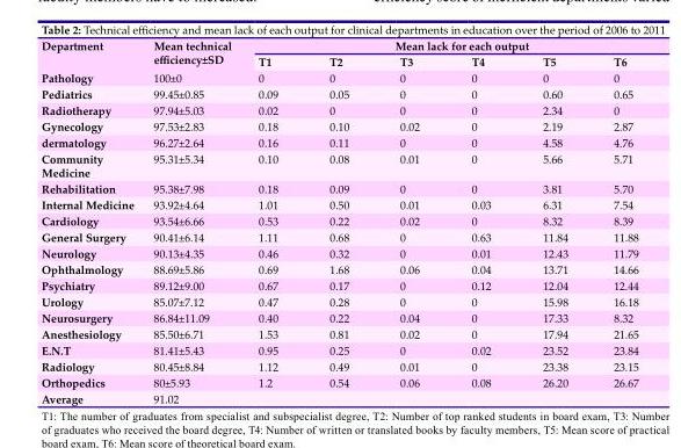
<table><thead><tr><td rowspan="2">Department</td><td rowspan="2">Mean technical efficiency±SD</td><td colspan="6">Mean lack for each output</td></tr><tr><td>T1</td><td>T2</td><td>T3</td><td>T4</td><td>T5</td><td>T6</td></tr></thead><tbody><tr><td>Pathology</td><td>100±0</td><td>0</td><td>0</td><td>0</td><td>0</td><td>0</td><td>0</td></tr><tr><td>Pediatrics</td><td>99.45±0.85</td><td>0.09</td><td>0.05</td><td>0</td><td>0</td><td>0.60</td><td>0.65</td></tr><tr><td>Radiotherapy</td><td>97.94±5.03</td><td>0.02</td><td>0</td><td>0</td><td>0</td><td>2.34</td><td>0</td></tr><tr><td>Gynecology</td><td>97.53±2.83</td><td>0.18</td><td>0.10</td><td>0.02</td><td>0</td><td>2.19</td><td>2.87</td></tr><tr><td>dermatology</td><td>96.27±2.64</td><td>0.16</td><td>0.11</td><td>0</td><td>0</td><td>4.58</td><td>4.76</td></tr><tr><td>Community Medicine</td><td>95.31±5.34</td><td>0.10</td><td>0.08</td><td>0.01</td><td>0</td><td>5.66</td><td>5.71</td></tr><tr><td>Rehabilitation</td><td>95.38±7.98</td><td>0.18</td><td>0.09</td><td>0</td><td>0</td><td>3.81</td><td>5.70</td></tr><tr><td>Internal Medicine</td><td>93.92±4.64</td><td>1.01</td><td>0.50</td><td>0.01</td><td>0.03</td><td>6.31</td><td>7.54</td></tr><tr><td>Cardiology</td><td>93.54±6.66</td><td>0.53</td><td>0.22</td><td>0.02</td><td>0</td><td>8.32</td><td>8.39</td></tr><tr><td>General Surgery</td><td>90.41±6.14</td><td>1.11</td><td>0.68</td><td>0</td><td>0.63</td><td>11.84</td><td>11.88</td></tr><tr><td>Neurology</td><td>90.13±4.35</td><td>0.46</td><td>0.32</td><td>0</td><td>0.01</td><td>12.43</td><td>11.79</td></tr><tr><td>Ophthalmology</td><td>88.69±5.86</td><td>0.69</td><td>1.68</td><td>0.06</td><td>0.04</td><td>13.71</td><td>14.66</td></tr><tr><td>Psychiatry</td><td>89.12±9.00</td><td>0.67</td><td>0.17</td><td>0</td><td>0.12</td><td>12.04</td><td>12.44</td></tr><tr><td>Urology</td><td>85.07±7.12</td><td>0.47</td><td>0.28</td><td>0</td><td>0</td><td>15.98</td><td>16.18</td></tr><tr><td>Neurosurgery</td><td>86.84±11.09</td><td>0.40</td><td>0.22</td><td>0.04</td><td>0</td><td>17.33</td><td>8.32</td></tr><tr><td>Anesthesiology</td><td>85.50±6.71</td><td>1.53</td><td>0.81</td><td>0.02</td><td>0</td><td>17.94</td><td>21.65</td></tr><tr><td>E.N.T</td><td>81.41±5.43</td><td>0.95</td><td>0.25</td><td>0</td><td>0.02</td><td>23.52</td><td>23.84</td></tr><tr><td>Radiology</td><td>80.45±8.84</td><td>1.12</td><td>0.49</td><td>0.01</td><td>0</td><td>23.38</td><td>23.15</td></tr><tr><td>Orthopedics</td><td>80±5.93</td><td>1.2</td><td>0.54</td><td>0.06</td><td>0.08</td><td>26.20</td><td>26.67</td></tr><tr><td>Average</td><td>91.02</td><td colspan="6"></td></tr></tbody></table>